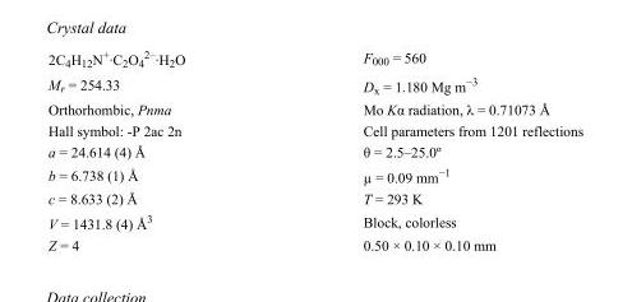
<table><tbody><tr><td>2C<sub>4</sub>H<sub>12</sub>N<sup>+</sup>·C<sub>2</sub>O<sub>4</sub> <sup>2–</sup>·H<sub>2</sub>O</td><td>F000 = 560</td></tr><tr><td>M<sub>r</sub> = 254.33</td><td>D<sub>x</sub> = 1.180 Mg m<sup>−3</sup></td></tr><tr><td>Orthorhombic, Pnma</td><td>Mo Kα radiation, λ = 0.71073 Å</td></tr><tr><td>Hall symbol: -P 2ac 2n</td><td>Cell parameters from 1201 reflections</td></tr><tr><td>a = 24.614 (4) Å</td><td>θ = 2.5–25.0º</td></tr><tr><td>b = 6.738 (1) Å</td><td>µ = 0.09 mm<sup>−1</sup></td></tr><tr><td>c = 8.633 (2) Å</td><td>T = 293 K</td></tr><tr><td>V = 1431.8 (4) Å<sup>3</sup></td><td>Block, colorless</td></tr><tr><td>Z = 4</td><td>0.50 × 0.10 × 0.10 mm</td></tr></tbody></table>